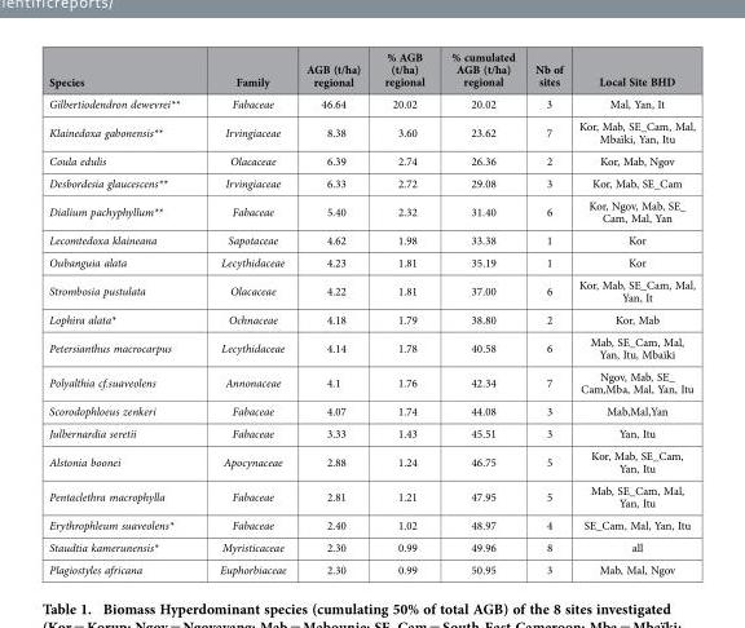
<table><thead><tr><td>Species</td><td>Family</td><td>AGB (t/ha) regional</td><td>% AGB (t/ha) regional</td><td>% cumulated AGB (t/ha) regional</td><td>Nb of sites</td><td>Local Site BHD</td></tr></thead><tbody><tr><td>Gilbertiodendron dewevrei**</td><td>Fabaceae</td><td>46.64</td><td>20.02</td><td>20.02</td><td>3</td><td>Mal, Yan, It</td></tr><tr><td>Klainedoxa gabonensis**</td><td>Irvingiaceae</td><td>8.38</td><td>3.60</td><td>23.62</td><td>7</td><td>Kor, Mab, SE_Cam, Mal, Mbaïki, Yan, Itu</td></tr><tr><td>Coula edulis</td><td>Olacaceae</td><td>6.39</td><td>2.74</td><td>26.36</td><td>2</td><td>Kor, Mab, Ngov</td></tr><tr><td>Desbordesia glaucescens**</td><td>Irvingiaceae</td><td>6.33</td><td>2.72</td><td>29.08</td><td>3</td><td>Kor, Mab, SE_Cam</td></tr><tr><td>Dialium pachyphyllum**</td><td>Fabaceae</td><td>5.40</td><td>2.32</td><td>31.40</td><td>6</td><td>Kor, Ngov, Mab, SE_ Cam, Mal, Yan</td></tr><tr><td>Lecomtedoxa klaineana</td><td>Sapotaceae</td><td>4.62</td><td>1.98</td><td>33.38</td><td>1</td><td>Kor</td></tr><tr><td>Oubanguia alata</td><td>Lecythidaceae</td><td>4.23</td><td>1.81</td><td>35.19</td><td>1</td><td>Kor</td></tr><tr><td>Strombosia pustulata</td><td>Olacaceae</td><td>4.22</td><td>1.81</td><td>37.00</td><td>6</td><td>Kor, Mab, SE_Cam, Mal, Yan, It</td></tr><tr><td>Lophira alata*</td><td>Ochnaceae</td><td>4.18</td><td>1.79</td><td>38.80</td><td>2</td><td>Kor, Mab</td></tr><tr><td>Petersianthus macrocarpus</td><td>Lecythidaceae</td><td>4.14</td><td>1.78</td><td>40.58</td><td>6</td><td>Mab, SE_Cam, Mal, Yan, Itu, Mbaïki</td></tr><tr><td>Polyalthia cf.suaveolens</td><td>Annonaceae</td><td>4.1</td><td>1.76</td><td>42.34</td><td>7</td><td>Ngov, Mab, SE_ Cam,Mba, Mal, Yan, Itu</td></tr><tr><td>Scorodophloeus zenkeri</td><td>Fabaceae</td><td>4.07</td><td>1.74</td><td>44.08</td><td>3</td><td>Mab,Mal,Yan</td></tr><tr><td>Julbernardia seretii</td><td>Fabaceae</td><td>3.33</td><td>1.43</td><td>45.51</td><td>3</td><td>Yan, Itu</td></tr><tr><td>Alstonia boonei</td><td>Apocynaceae</td><td>2.88</td><td>1.24</td><td>46.75</td><td>5</td><td>Kor, Mab, SE_Cam, Yan, Itu</td></tr><tr><td>Pentaclethra macrophylla</td><td>Fabaceae</td><td>2.81</td><td>1.21</td><td>47.95</td><td>5</td><td>Mab, SE_Cam, Mal, Yan, Itu</td></tr><tr><td>Erythrophleum suaveolens*</td><td>Fabaceae</td><td>2.40</td><td>1.02</td><td>48.97</td><td>4</td><td>SE_Cam, Mal, Yan, Itu</td></tr><tr><td>Staudtia kamerunensis*</td><td>Myristicaceae</td><td>2.30</td><td>0.99</td><td>49.96</td><td>8</td><td>all</td></tr><tr><td>Plagiostyles africana</td><td>Euphorbiaceae</td><td>2.30</td><td>0.99</td><td>50.95</td><td>3</td><td>Mab, Mal, Ngov</td></tr></tbody></table>